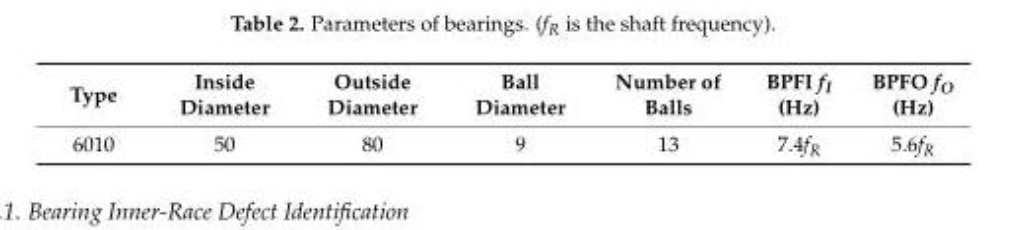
<table><thead><tr><td>Type</td><td>Inside Diameter</td><td>Outside Diameter</td><td>Ball Diameter</td><td>Number of Balls</td><td>BPFI f<sub>I</sub> (Hz)</td><td>BPFO f<sub>O</sub> (Hz)</td></tr></thead><tbody><tr><td>6010</td><td>50</td><td>80</td><td>9</td><td>13</td><td>7.4f<sub>R</sub></td><td>5.6f<sub>R</sub></td></tr></tbody></table>